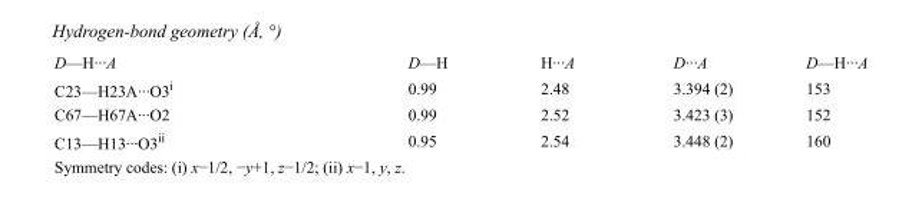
<table><tbody><tr><td>D—H···A</td><td>D—H</td><td>H···A</td><td>D···A</td><td>D—H···A</td></tr><tr><td>C23—H23A···O3<sup>i</sup></td><td>0.99</td><td>2.48</td><td>3.394 (2)</td><td>153</td></tr><tr><td>C67—H67A···O2</td><td>0.99</td><td>2.52</td><td>3.423 (3)</td><td>152</td></tr><tr><td>C13—H13···O3<sup>ii</sup></td><td>0.95</td><td>2.54</td><td>3.448 (2)</td><td>160</td></tr></tbody></table>